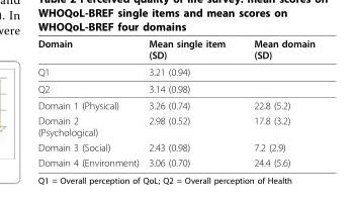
<table><thead><tr><td>Domain</td><td>Mean single item (SD)</td><td>Mean domain (SD)</td></tr></thead><tbody><tr><td>Q1</td><td>3.21 (0.94)</td><td></td></tr><tr><td>Q2</td><td>3.14 (0.98)</td><td></td></tr><tr><td>Domain 1 (Physical)</td><td>3.26 (0.74)</td><td>22.8 (5.2)</td></tr><tr><td>Domain 2 (Psychological)</td><td>2.98 (0.52)</td><td>17.8 (3.2)</td></tr><tr><td>Domain 3 (Social)</td><td>2.43 (0.98)</td><td>7.2 (2.9)</td></tr><tr><td>Domain 4 (Environment)</td><td>3.06 (0.70)</td><td>24.4 (5.6)</td></tr></tbody></table>